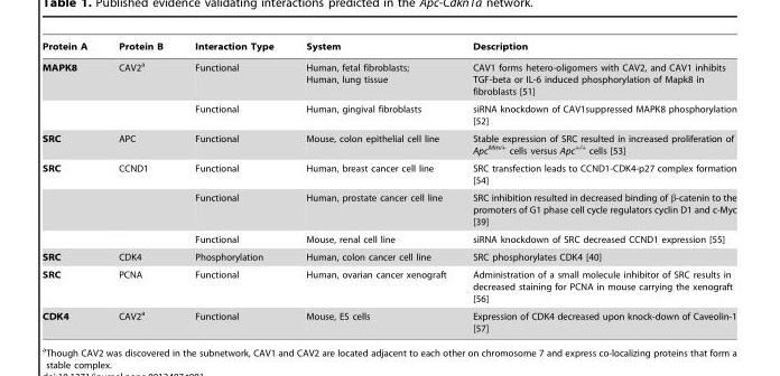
<table><thead><tr><td>Protein A</td><td>Protein B</td><td>Interaction Type</td><td>System</td><td>Description</td></tr></thead><tbody><tr><td rowspan="2">MAPK8</td><td>CAV2<sup>a</sup></td><td>Functional</td><td>Human, fetal fibroblasts; Human, lung tissue</td><td>CAV1 forms hetero-oligomers with CAV2, and CAV1 inhibits TGF-beta or IL-6 induced phosphorylation of Mapk8 in fibroblasts [51]</td></tr><tr><td></td><td>Functional</td><td>Human, gingival fibroblasts</td><td>siRNA knockdown of CAV1suppressed MAPK8 phosphorylation [52]</td></tr><tr><td>SRC</td><td>APC</td><td>Functional</td><td>Mouse, colon epithelial cell line</td><td>Stable expression of SRC resulted in increased proliferation of Apc<sup>Min/+</sup> cells versus Apc<sup>+/+</sup> cells [53]</td></tr><tr><td rowspan="3">SRC</td><td>CCND1</td><td>Functional</td><td>Human, breast cancer cell line</td><td>SRC transfection leads to CCND1-CDK4-p27 complex formation [54]</td></tr><tr><td></td><td>Functional</td><td>Human, prostate cancer cell line</td><td>SRC inhibition resulted in decreased binding of β-catenin to the promoters of G1 phase cell cycle regulators cyclin D1 and c-Myc [39]</td></tr><tr><td></td><td>Functional</td><td>Mouse, renal cell line</td><td>siRNA knockdown of SRC decreased CCND1 expression [55]</td></tr><tr><td>SRC</td><td>CDK4</td><td>Phosphorylation</td><td>Human, colon cancer cell line</td><td>SRC phosphorylates CDK4 [40]</td></tr><tr><td>SRC</td><td>PCNA</td><td>Functional</td><td>Human, ovarian cancer xenograft</td><td>Administration of a small molecule inhibitor of SRC results in decreased staining for PCNA in mouse carrying the xenograft [56]</td></tr><tr><td>CDK4</td><td>CAV2<sup>a</sup></td><td>Functional</td><td>Mouse, ES cells</td><td>Expression of CDK4 decreased upon knock-down of Caveolin-1 [57]</td></tr></tbody></table>